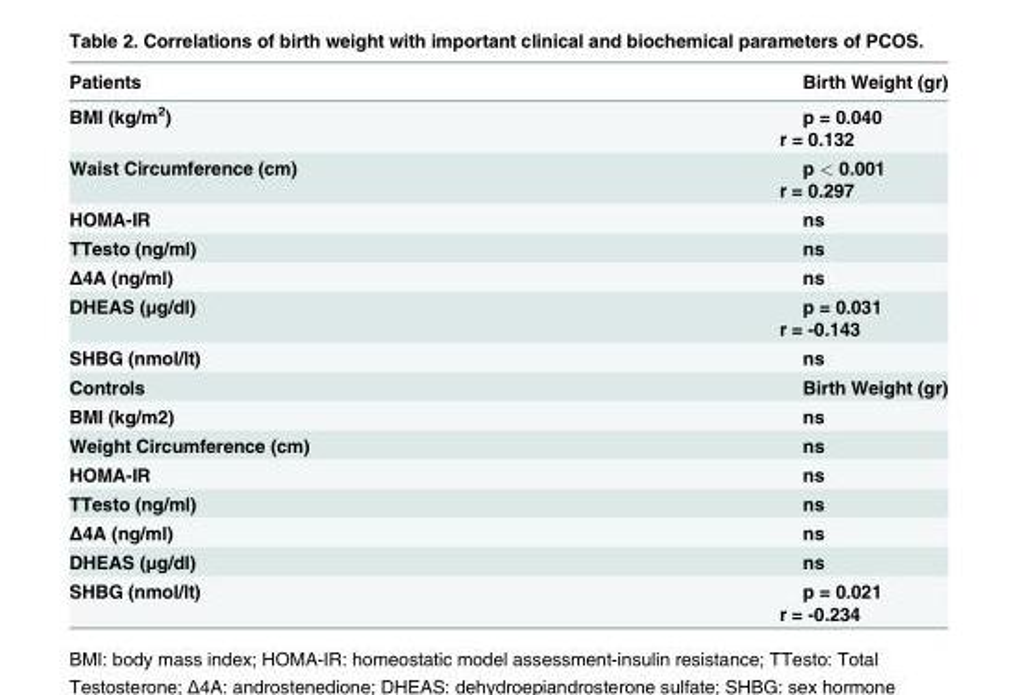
<table><thead><tr><td>Patients</td><td>Birth Weight (gr)</td></tr></thead><tbody><tr><td>BMI (kg/m<sup>2</sup>)</td><td>p = 0.040 r = 0.132</td></tr><tr><td>Waist Circumference (cm)</td><td>p &lt; 0.001 r = 0.297</td></tr><tr><td>HOMA-IR</td><td>ns</td></tr><tr><td>TTesto (ng/ml)</td><td>ns</td></tr><tr><td>Δ4A (ng/ml)</td><td>ns</td></tr><tr><td>DHEAS (μg/dl)</td><td>p = 0.031 r = -0.143</td></tr><tr><td>SHBG (nmol/lt)</td><td>ns</td></tr><tr><td>Controls</td><td>Birth Weight (gr)</td></tr><tr><td>BMI (kg/m2)</td><td>ns</td></tr><tr><td>Weight Circumference (cm)</td><td>ns</td></tr><tr><td>HOMA-IR</td><td>ns</td></tr><tr><td>TTesto (ng/ml)</td><td>ns</td></tr><tr><td>Δ4A (ng/ml)</td><td>ns</td></tr><tr><td>DHEAS (μg/dl)</td><td>ns</td></tr><tr><td>SHBG (nmol/lt)</td><td>p = 0.021 r = -0.234</td></tr></tbody></table>